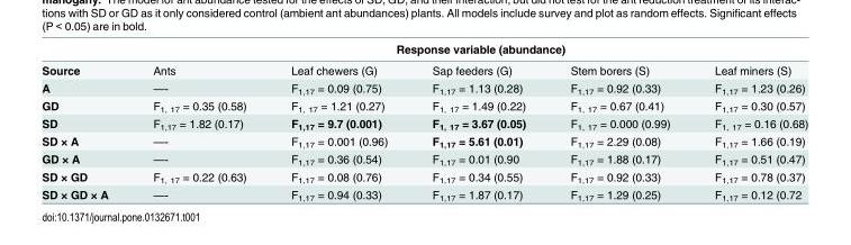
<table><thead><tr><td rowspan="2">Source</td><td colspan="5">Response variable (abundance)</td></tr><tr><td>Ants</td><td>Leaf chewers (G)</td><td>Sap feeders (G)</td><td>Stem borers (S)</td><td>Leaf miners (S)</td></tr></thead><tbody><tr><td>A</td><td>—-</td><td>F<sub>1,17</sub> = 0.09 (0.75)</td><td>F<sub>1,17</sub> = 1.13 (0.28)</td><td>F<sub>1,17</sub> = 0.92 (0.33)</td><td>F<sub>1,17</sub> = 1.23 (0.26)</td></tr><tr><td>GD</td><td>F<sub>1, 17</sub> = 0.35 (0.58)</td><td>F<sub>1, 17</sub> = 1.21 (0.27)</td><td>F<sub>1, 17</sub> = 1.49 (0.22)</td><td>F<sub>1, 17</sub> = 0.67 (0.41)</td><td>F<sub>1,17</sub> = 0.30 (0.57)</td></tr><tr><td>SD</td><td>F<sub>1,17</sub> = 1.82 (0.17)</td><td>F<sub>1,17</sub> = 9.7 (0.001)</td><td>F<sub>1, 17</sub> = 3.67 (0.05)</td><td>F<sub>1, 17</sub> = 0.000 (0.99)</td><td>F<sub>1, 17</sub> = 0.16 (0.68)</td></tr><tr><td>SD × A</td><td>—-</td><td>F<sub>1,17</sub> = 0.001 (0.96)</td><td>F<sub>1,17</sub> = 5.61 (0.01)</td><td>F<sub>1,17</sub> = 2.29 (0.08)</td><td>F<sub>1,17</sub> = 1.66 (0.19)</td></tr><tr><td>GD × A</td><td>—-</td><td>F<sub>1,17</sub> = 0.36 (0.54)</td><td>F<sub>1,17</sub> = 0.01 (0.90</td><td>F<sub>1,17</sub> = 1.88 (0.17)</td><td>F<sub>1,17</sub> = 0.51 (0.47)</td></tr><tr><td>SD × GD</td><td>F<sub>1, 17</sub> = 0.22 (0.63)</td><td>F<sub>1,17</sub> = 0.08 (0.76)</td><td>F<sub>1,17</sub> = 0.34 (0.55)</td><td>F<sub>1,17</sub> = 0.92 (0.33)</td><td>F<sub>1,17</sub> = 0.78 (0.37)</td></tr><tr><td>SD × GD × A</td><td>—-</td><td>F<sub>1,17</sub> = 0.94 (0.33)</td><td>F<sub>1,17</sub> = 1.87 (0.17)</td><td>F<sub>1,17</sub> = 1.29 (0.25)</td><td>F<sub>1,17</sub> = 0.12 (0.72</td></tr></tbody></table>